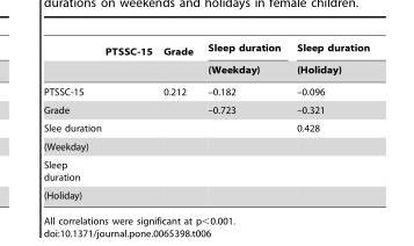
<table><thead><tr><td rowspan="2"></td><td rowspan="2">PTSSC-15</td><td rowspan="2">Grade</td><td rowspan="2">Sleep duration (Weekday)</td><td rowspan="2">Sleep duration (Holiday)</td></tr><tr></tr></thead><tbody><tr><td>PTSSC-15</td><td></td><td>0.212</td><td>–0.182</td><td>–0.096</td></tr><tr><td>Grade</td><td></td><td></td><td>–0.723</td><td>–0.321</td></tr><tr><td>Slee duration</td><td></td><td></td><td></td><td>0.428</td></tr><tr><td colspan="5">(Weekday)</td></tr><tr><td colspan="5">Sleep duration</td></tr><tr><td>(Holiday)</td><td></td><td></td><td></td><td></td></tr></tbody></table>